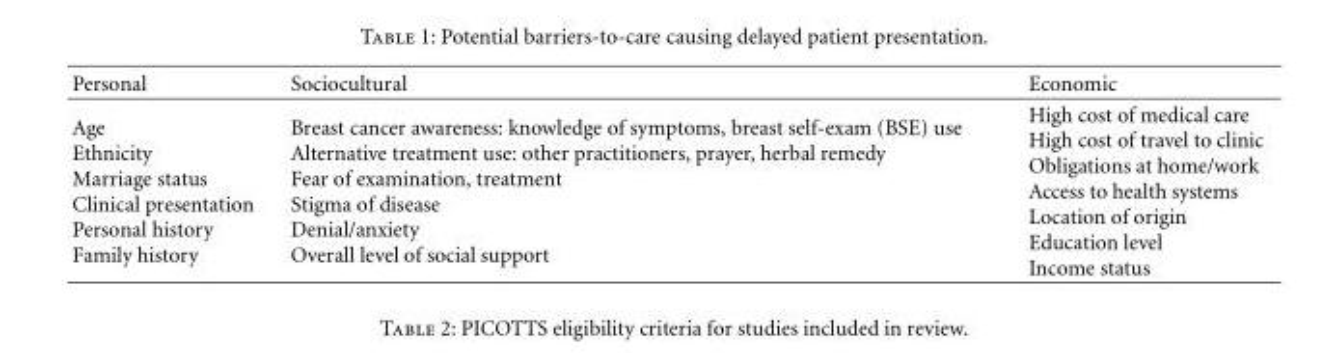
<table><thead><tr><td>Personal</td><td>Sociocultural</td><td>Economic</td></tr></thead><tbody><tr><td>Age Ethnicity Marriage status Clinical presentation Personal history Family history</td><td>Breast cancer awareness: knowledge of symptoms, breast self-exam (BSE) use Alternative treatment use: other practitioners, prayer, herbal remedy Fear of examination, treatment Stigma of disease Denial/anxiety Overall level of social support</td><td>High cost of medical care High cost of travel to clinic Obligations at home/work Access to health systems Location of origin Education level Income status</td></tr></tbody></table>